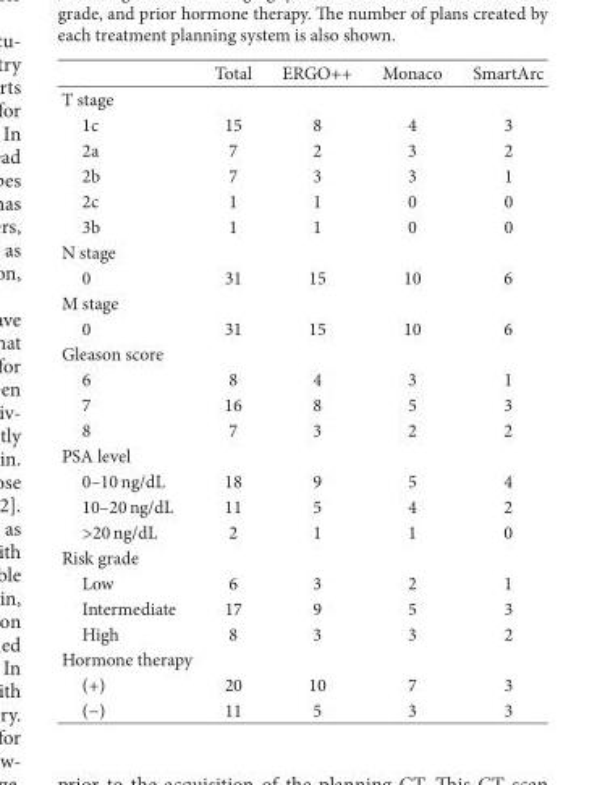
<table><thead><tr><td></td><td>Total</td><td>ERGO++</td><td>Monaco</td><td>SmartArc</td></tr></thead><tbody><tr><td colspan="5">T stage</td></tr><tr><td>1c</td><td>15</td><td>8</td><td>4</td><td>3</td></tr><tr><td>2a</td><td>7</td><td>2</td><td>3</td><td>2</td></tr><tr><td>2b</td><td>7</td><td>3</td><td>3</td><td>1</td></tr><tr><td>2c</td><td>1</td><td>1</td><td>0</td><td>0</td></tr><tr><td>3b</td><td>1</td><td>1</td><td>0</td><td>0</td></tr><tr><td colspan="5">N stage</td></tr><tr><td>0</td><td>31</td><td>15</td><td>10</td><td>6</td></tr><tr><td colspan="5">M stage</td></tr><tr><td>0</td><td>31</td><td>15</td><td>10</td><td>6</td></tr><tr><td colspan="5">Gleason score</td></tr><tr><td>6</td><td>8</td><td>4</td><td>3</td><td>1</td></tr><tr><td>7</td><td>16</td><td>8</td><td>5</td><td>3</td></tr><tr><td>8</td><td>7</td><td>3</td><td>2</td><td>2</td></tr><tr><td colspan="5">PSA level</td></tr><tr><td>0–10 ng/dL</td><td>18</td><td>9</td><td>5</td><td>4</td></tr><tr><td>10–20 ng/dL</td><td>11</td><td>5</td><td>4</td><td>2</td></tr><tr><td>&gt;20 ng/dL</td><td>2</td><td>1</td><td>1</td><td>0</td></tr><tr><td colspan="5">Risk grade</td></tr><tr><td>Low</td><td>6</td><td>3</td><td>2</td><td>1</td></tr><tr><td>Intermediate</td><td>17</td><td>9</td><td>5</td><td>3</td></tr><tr><td>High</td><td>8</td><td>3</td><td>3</td><td>2</td></tr><tr><td colspan="5">Hormone therapy</td></tr><tr><td>(+)</td><td>20</td><td>10</td><td>7</td><td>3</td></tr><tr><td>(−)</td><td>11</td><td>5</td><td>3</td><td>3</td></tr></tbody></table>